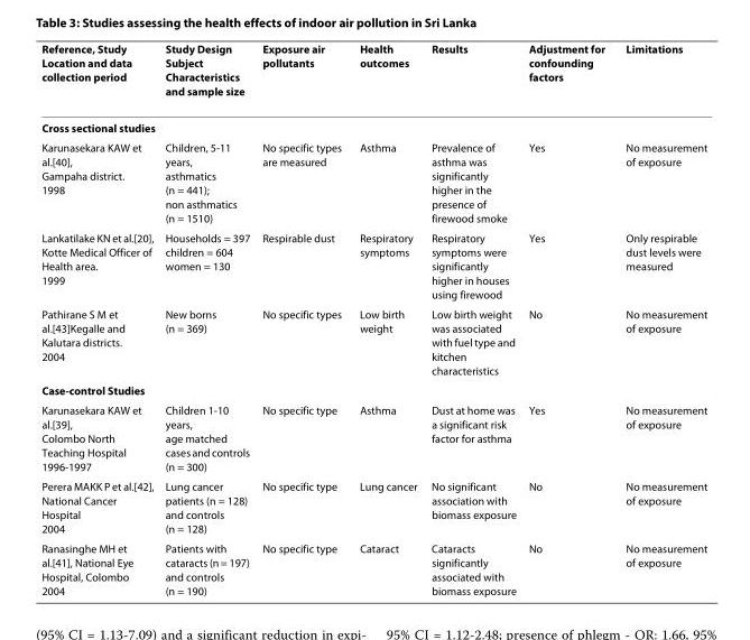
<table><thead><tr><td>Reference, Study Location and data collection period</td><td>Study Design Subject Characteristics and sample size</td><td>Exposure air pollutants</td><td>Health outcomes</td><td>Results</td><td>Adjustment for confounding factors</td><td>Limitations</td></tr></thead><tbody><tr><td colspan="7">Cross sectional studies</td></tr><tr><td>Karunasekara KAW et al.[40], Gampaha district. 1998</td><td>Children, 5-11 years, asthmatics (n = 441); non asthmatics (n = 1510)</td><td>No specific types are measured</td><td>Asthma</td><td>Prevalence of asthma was significantly higher in the presence of firewood smoke</td><td>Yes</td><td>No measurement of exposure</td></tr><tr><td>Lankatilake KN et al.[20], Kotte Medical Officer of Health area. 1999</td><td>Households = 397 children = 604 women = 130</td><td>Respirable dust</td><td>Respiratory symptoms</td><td>Respiratory symptoms were significantly higher in houses using firewood</td><td>Yes</td><td>Only respirable dust levels were measured</td></tr><tr><td>Pathirane S M et al.[43]Kegalle and Kalutara districts. 2004</td><td>New borns (n = 369)</td><td>No specific types</td><td>Low birth weight</td><td>Low birth weight was associated with fuel type and kitchen characteristics</td><td>No</td><td>No measurement of exposure</td></tr><tr><td colspan="7">Case-control Studies</td></tr><tr><td>Karunasekara KAW et al.[39], Colombo North Teaching Hospital 1996-1997</td><td>Children 1-10 years, age matched cases and controls (n = 300)</td><td>No specific type</td><td>Asthma</td><td>Dust at home was a significant risk factor for asthma</td><td>Yes</td><td>No measurement of exposure</td></tr><tr><td>Perera MAKK P et al.[42], National Cancer Hospital 2004</td><td>Lung cancer patients (n = 128) and controls (n = 128)</td><td>No specific type</td><td>Lung cancer</td><td>No significant association with biomass exposure</td><td>No</td><td>No measurement of exposure</td></tr><tr><td>Ranasinghe MH et al.[41], National Eye Hospital, Colombo 2004</td><td>Patients with cataracts (n = 197) and controls (n = 190)</td><td>No specific type</td><td>Cataract</td><td>Cataracts significantly associated with biomass exposure</td><td>No</td><td>No measurement of exposure</td></tr></tbody></table>